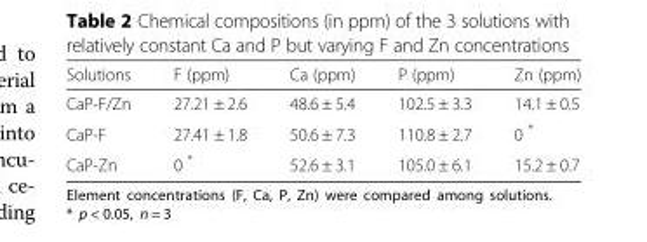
<table><thead><tr><td>Solutions</td><td>F (ppm)</td><td>Ca (ppm)</td><td>P (ppm)</td><td>Zn (ppm)</td></tr></thead><tbody><tr><td>CaP-F/Zn</td><td>27.21 ± 2.6</td><td>48.6 ± 5.4</td><td>102.5 ± 3.3</td><td>14.1 ± 0.5</td></tr><tr><td>CaP-F</td><td>27.41 ± 1.8</td><td>50.6 ± 7.3</td><td>110.8 ± 2.7</td><td>0 *</td></tr><tr><td>CaP-Zn</td><td>0 *</td><td>52.6 ± 3.1</td><td>105.0 ± 6.1</td><td>15.2 ± 0.7</td></tr></tbody></table>